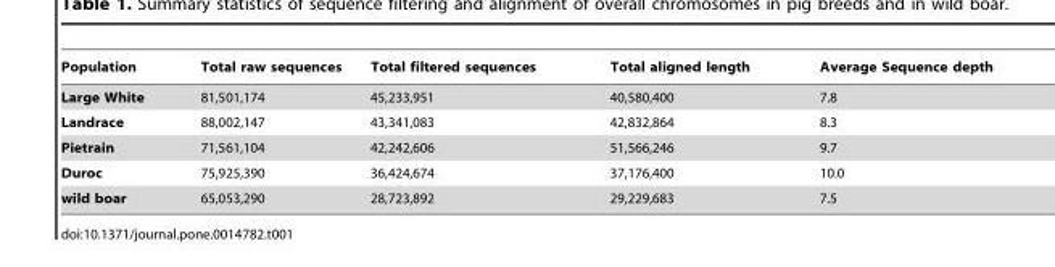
<table><thead><tr><td>Population</td><td>Total raw sequences</td><td>Total filtered sequences</td><td>Total aligned length</td><td>Average Sequence depth</td></tr></thead><tbody><tr><td>Large White</td><td>81,501,174</td><td>45,233,951</td><td>40,580,400</td><td>7.8</td></tr><tr><td>Landrace</td><td>88,002,147</td><td>43,341,083</td><td>42,832,864</td><td>8.3</td></tr><tr><td>Pietrain</td><td>71,561,104</td><td>42,242,606</td><td>51,566,246</td><td>9.7</td></tr><tr><td>Duroc</td><td>75,925,390</td><td>36,424,674</td><td>37,176,400</td><td>10.0</td></tr><tr><td>wild boar</td><td>65,053,290</td><td>28,723,892</td><td>29,229,683</td><td>7.5</td></tr></tbody></table>